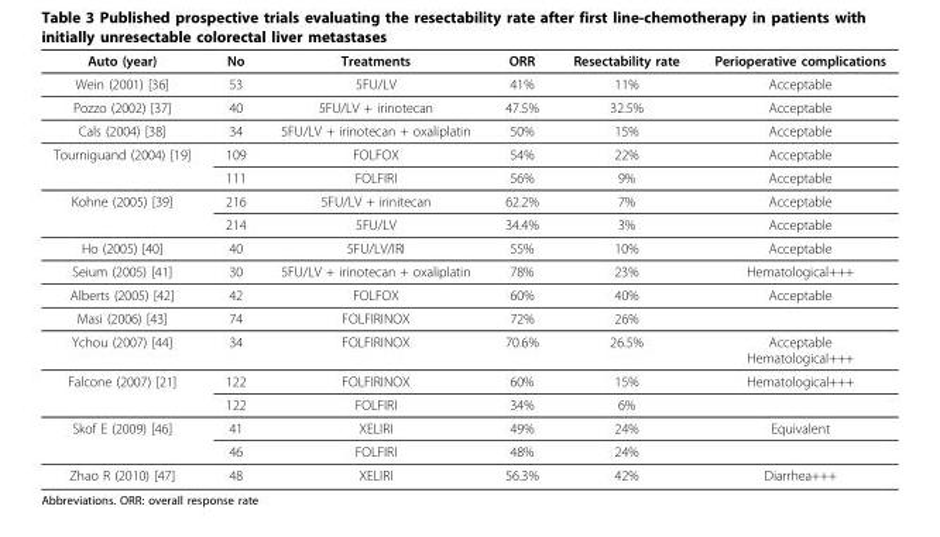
<table><thead><tr><td>Auto (year)</td><td>No</td><td>Treatments</td><td>ORR</td><td>Resectability rate</td><td>Perioperative complications</td></tr></thead><tbody><tr><td>Wein (2001) [36]</td><td>53</td><td>5FU/LV</td><td>41%</td><td>11%</td><td>Acceptable</td></tr><tr><td>Pozzo (2002) [37]</td><td>40</td><td>5FU/LV + irinotecan</td><td>47.5%</td><td>32.5%</td><td>Acceptable</td></tr><tr><td>Cals (2004) [38]</td><td>34</td><td>5FU/LV + irinotecan + oxaliplatin</td><td>50%</td><td>15%</td><td>Acceptable</td></tr><tr><td rowspan="2">Tourniguand (2004) [19]</td><td>109</td><td>FOLFOX</td><td>54%</td><td>22%</td><td>Acceptable</td></tr><tr><td>111</td><td>FOLFIRI</td><td>56%</td><td>9%</td><td>Acceptable</td></tr><tr><td rowspan="2">Kohne (2005) [39]</td><td>216</td><td>5FU/LV + irinitecan</td><td>62.2%</td><td>7%</td><td>Acceptable</td></tr><tr><td>214</td><td>5FU/LV</td><td>34.4%</td><td>3%</td><td>Acceptable</td></tr><tr><td>Ho (2005) [40]</td><td>40</td><td>5FU/LV/IRI</td><td>55%</td><td>10%</td><td>Acceptable</td></tr><tr><td>Seium (2005) [41]</td><td>30</td><td>5FU/LV + irinotecan + oxaliplatin</td><td>78%</td><td>23%</td><td>Hematological+++</td></tr><tr><td>Alberts (2005) [42]</td><td>42</td><td>FOLFOX</td><td>60%</td><td>40%</td><td>Acceptable</td></tr><tr><td>Masi (2006) [43]</td><td>74</td><td>FOLFIRINOX</td><td>72%</td><td>26%</td><td></td></tr><tr><td>Ychou (2007) [44]</td><td>34</td><td>FOLFIRINOX</td><td>70.6%</td><td>26.5%</td><td>Acceptable Hematological+++</td></tr><tr><td rowspan="2">Falcone (2007) [21]</td><td>122</td><td>FOLFIRINOX</td><td>60%</td><td>15%</td><td>Hematological+++</td></tr><tr><td>122</td><td>FOLFIRI</td><td>34%</td><td>6%</td><td></td></tr><tr><td rowspan="2">Skof E (2009) [46]</td><td>41</td><td>XELIRI</td><td>49%</td><td>24%</td><td>Equivalent</td></tr><tr><td>46</td><td>FOLFIRI</td><td>48%</td><td>24%</td><td></td></tr><tr><td>Zhao R (2010) [47]</td><td>48</td><td>XELIRI</td><td>56.3%</td><td>42%</td><td>Diarrhea+++</td></tr></tbody></table>